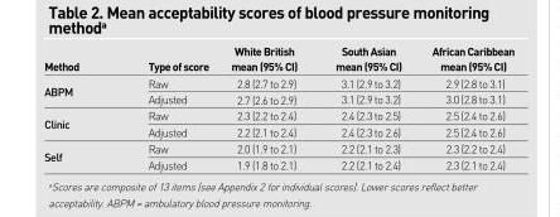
<table><thead><tr><td>Method</td><td>Type of score</td><td>White British mean (95% CI)</td><td>South Asian mean (95% CI)</td><td>African Caribbean mean (95% CI)</td></tr></thead><tbody><tr><td rowspan="2">ABPM</td><td>Raw</td><td>2.8 (2.7 to 2.9)</td><td>3.1 (2.9 to 3.2)</td><td>2.9 (2.8 to 3.1)</td></tr><tr><td>Adjusted</td><td>2.7 (2.6 to 2.9)</td><td>3.1 (2.9 to 3.2)</td><td>3.0 (2.8 to 3.1)</td></tr><tr><td rowspan="2">Clinic</td><td>Raw</td><td>2.3 (2.2 to 2.4)</td><td>2.4 (2.3 to 2.5)</td><td>2.5 (2.4 to 2.6)</td></tr><tr><td>Adjusted</td><td>2.2 (2.1 to 2.4)</td><td>2.4 (2.3 to 2.6)</td><td>2.5 (2.4 to 2.6)</td></tr><tr><td rowspan="2">Self</td><td>Raw</td><td>2.0 (1.9 to 2.1)</td><td>2.2 (2.1 to 2.3)</td><td>2.3 (2.2 to 2.4)</td></tr><tr><td>Adjusted</td><td>1.9 (1.8 to 2.1)</td><td>2.2 (2.1 to 2.4)</td><td>2.3 (2.1 to 2.4)</td></tr></tbody></table>